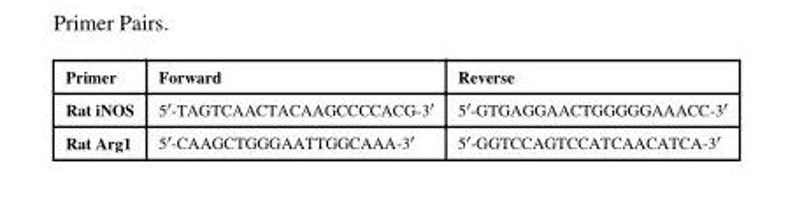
<table><thead><tr><td>Primer</td><td>Forward</td><td>Reverse</td></tr></thead><tbody><tr><td>Rat iNOS</td><td>5′-TAGTCAACTACAAGCCCCACG-3′</td><td>5′-GTGAGGAACTGGGGGAAACC-3′</td></tr><tr><td>Rat Arg1</td><td>5′-CAAGCTGGGAATTGGCAAA-3′</td><td>5′-GGTCCAGTCCATCAACATCA-3′</td></tr></tbody></table>